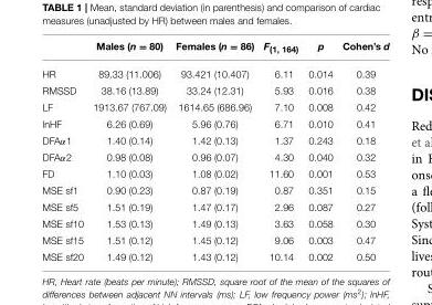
<table><thead><tr><td></td><td>Males (n = 80)</td><td>Females (n = 86)</td><td>F<sub>(1, 164)</sub></td><td>p</td><td>Cohen’s d</td></tr></thead><tbody><tr><td>HR</td><td>89.33 (11.006)</td><td>93.421 (10.407)</td><td>6.11</td><td>0.014</td><td>0.39</td></tr><tr><td>RMSSD</td><td>38.16 (13.89)</td><td>33.24 (12.31)</td><td>5.93</td><td>0.016</td><td>0.38</td></tr><tr><td>LF</td><td>1913.67 (767.09)</td><td>1614.65 (686.96)</td><td>7.10</td><td>0.008</td><td>0.42</td></tr><tr><td>lnHF</td><td>6.26 (0.69)</td><td>5.96 (0.76)</td><td>6.71</td><td>0.010</td><td>0.41</td></tr><tr><td>DFAα1</td><td>1.40 (0.14)</td><td>1.42 (0.13)</td><td>1.37</td><td>0.243</td><td>0.18</td></tr><tr><td>DFAα2</td><td>0.98 (0.08)</td><td>0.96 (0.07)</td><td>4.30</td><td>0.040</td><td>0.32</td></tr><tr><td>FD</td><td>1.10 (0.03)</td><td>1.08 (0.02)</td><td>11.60</td><td>0.001</td><td>0.53</td></tr><tr><td>MSE sf1</td><td>0.90 (0.23)</td><td>0.87 (0.19)</td><td>0.87</td><td>0.351</td><td>0.15</td></tr><tr><td>MSE sf5</td><td>1.51 (0.19)</td><td>1.47 (0.17)</td><td>2.96</td><td>0.087</td><td>0.27</td></tr><tr><td>MSE sf10</td><td>1.53 (0.13)</td><td>1.49 (0.13)</td><td>3.63</td><td>0.058</td><td>0.30</td></tr><tr><td>MSE sf15</td><td>1.51 (0.12)</td><td>1.45 (0.12)</td><td>9.06</td><td>0.003</td><td>0.47</td></tr><tr><td>MSE sf20</td><td>1.49 (0.12)</td><td>1.43 (0.12)</td><td>10.14</td><td>0.002</td><td>0.50</td></tr></tbody></table>